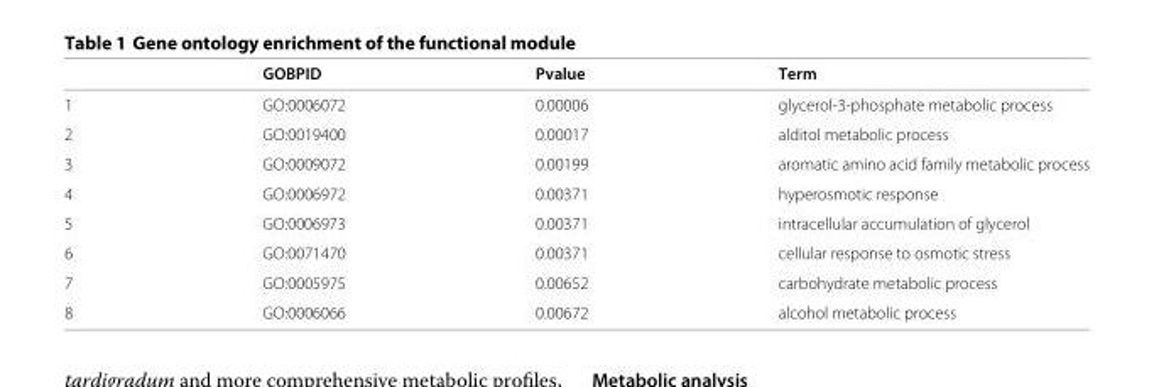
<table><thead><tr><td></td><td>GOBPID</td><td>Pvalue</td><td>Term</td></tr></thead><tbody><tr><td>1</td><td>GO:0006072</td><td>0.00006</td><td>glycerol-3-phosphate metabolic process</td></tr><tr><td>2</td><td>GO:0019400</td><td>0.00017</td><td>alditol metabolic process</td></tr><tr><td>3</td><td>GO:0009072</td><td>0.00199</td><td>aromatic amino acid family metabolic process</td></tr><tr><td>4</td><td>GO:0006972</td><td>0.00371</td><td>hyperosmotic response</td></tr><tr><td>5</td><td>GO:0006973</td><td>0.00371</td><td>intracellular accumulation of glycerol</td></tr><tr><td>6</td><td>GO:0071470</td><td>0.00371</td><td>cellular response to osmotic stress</td></tr><tr><td>7</td><td>GO:0005975</td><td>0.00652</td><td>carbohydrate metabolic process</td></tr><tr><td>8</td><td>GO:0006066</td><td>0.00672</td><td>alcohol metabolic process</td></tr></tbody></table>